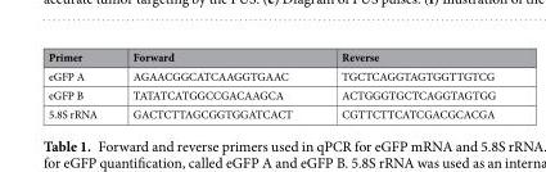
<table><thead><tr><td>Primer</td><td>Forward</td><td>Reverse</td></tr></thead><tbody><tr><td>eGFP A</td><td>AGAACGGCATCAAGGTGAAC</td><td>TGCTCAGGTAGTGGTTGTCG</td></tr><tr><td>eGFP B</td><td>TATATCATGGCCGACAAGCA</td><td>ACTGGGTGCTCAGGTAGTGG</td></tr><tr><td>5.8S rRNA</td><td>GACTCTTAGCGGTGGATCACT</td><td>CGTTCTTCATCGACGCACGA</td></tr></tbody></table>